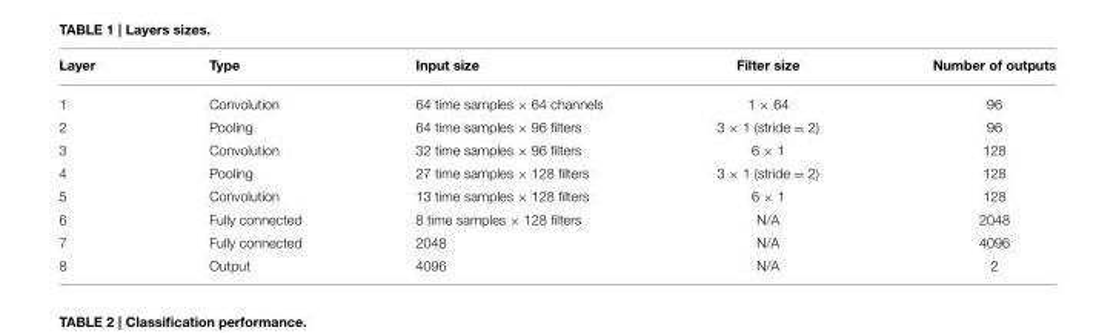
<table><thead><tr><td>Layer</td><td>Type</td><td>Input size</td><td>Filter size</td><td>Number of outputs</td></tr></thead><tbody><tr><td>1</td><td>Convolution</td><td>64 time samples × 64 channels</td><td>1 × 64</td><td>96</td></tr><tr><td>2</td><td>Pooling</td><td>64 time samples × 96 filters</td><td>3 × 1 (stride = 2)</td><td>96</td></tr><tr><td>3</td><td>Convolution</td><td>32 time samples × 96 filters</td><td>6 × 1</td><td>128</td></tr><tr><td>4</td><td>Pooling</td><td>27 time samples × 128 filters</td><td>3 × 1 (stride = 2)</td><td>128</td></tr><tr><td>5</td><td>Convolution</td><td>13 time samples × 128 filters</td><td>6 × 1</td><td>128</td></tr><tr><td>6</td><td>Fully connected</td><td>8 time samples × 128 filters</td><td>N/A</td><td>2048</td></tr><tr><td>7</td><td>Fully connected</td><td>2048</td><td>N/A</td><td>4096</td></tr><tr><td>8</td><td>Output</td><td>4096</td><td>N/A</td><td>2</td></tr></tbody></table>